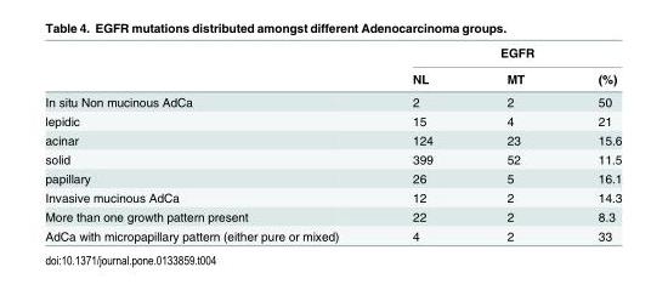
<table><thead><tr><td rowspan="2"></td><td colspan="3">EGFR</td></tr><tr><td>NL</td><td>MT</td><td>(%)</td></tr></thead><tbody><tr><td>In situ Non mucinous AdCa</td><td>2</td><td>2</td><td>50</td></tr><tr><td>lepidic</td><td>15</td><td>4</td><td>21</td></tr><tr><td>acinar</td><td>124</td><td>23</td><td>15.6</td></tr><tr><td>solid</td><td>399</td><td>52</td><td>11.5</td></tr><tr><td>papillary</td><td>26</td><td>5</td><td>16.1</td></tr><tr><td>Invasive mucinous AdCa</td><td>12</td><td>2</td><td>14.3</td></tr><tr><td>More than one growth pattern present</td><td>22</td><td>2</td><td>8.3</td></tr><tr><td>AdCa with micropapillary pattern (either pure or mixed)</td><td>4</td><td>2</td><td>33</td></tr></tbody></table>